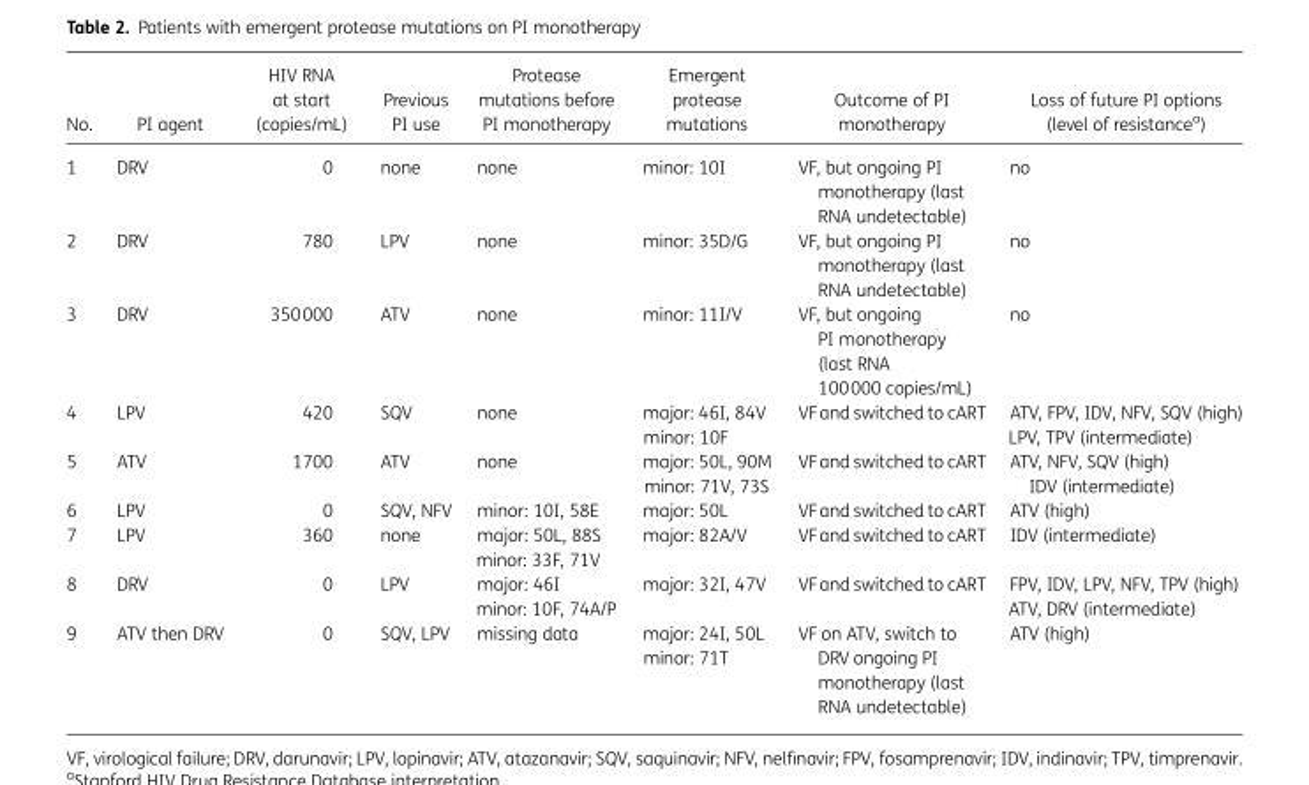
<table><thead><tr><td>No.</td><td>PI agent</td><td>HIV RNA at start (copies/mL)</td><td>Previous PI use</td><td>Protease mutations before PI monotherapy</td><td>Emergent protease mutations</td><td>Outcome of PI monotherapy</td><td>Loss of future PI options (level of resistance<sup>a</sup>)</td></tr></thead><tbody><tr><td>1</td><td>DRV</td><td>0</td><td>none</td><td>none</td><td>minor: 10I</td><td>VF, but ongoing PI monotherapy (last RNA undetectable)</td><td>no</td></tr><tr><td>2</td><td>DRV</td><td>780</td><td>LPV</td><td>none</td><td>minor: 35D/G</td><td>VF, but ongoing PI monotherapy (last RNA undetectable)</td><td>no</td></tr><tr><td>3</td><td>DRV</td><td>350000</td><td>ATV</td><td>none</td><td>minor: 11I/V</td><td>VF, but ongoing PI monotherapy (last RNA 100000 copies/mL)</td><td>no</td></tr><tr><td>4</td><td>LPV</td><td>420</td><td>SQV</td><td>none</td><td>major: 46I, 84V minor: 10F</td><td>VFand switched to cART</td><td>ATV, FPV, IDV, NFV, SQV (high) LPV, TPV (intermediate)</td></tr><tr><td>5</td><td>ATV</td><td>1700</td><td>ATV</td><td>none</td><td>major: 50L, 90M minor: 71V, 73S</td><td>VFand switched to cART</td><td>ATV, NFV, SQV (high) IDV (intermediate)</td></tr><tr><td>6</td><td>LPV</td><td>0</td><td>SQV, NFV</td><td>minor: 10I, 58E</td><td>major: 50L</td><td>VFand switched to cART</td><td>ATV (high)</td></tr><tr><td>7</td><td>LPV</td><td>360</td><td>none</td><td>major: 50L, 88S minor: 33F, 71V</td><td>major: 82A/V</td><td>VFand switched to cART</td><td>IDV (intermediate)</td></tr><tr><td>8</td><td>DRV</td><td>0</td><td>LPV</td><td>major: 46I minor: 10F, 74A/P</td><td>major: 32I, 47V</td><td>VFand switched to cART</td><td>FPV, IDV, LPV, NFV, TPV (high) ATV, DRV (intermediate)</td></tr><tr><td>9</td><td>ATV then DRV</td><td>0</td><td>SQV, LPV</td><td>missing data</td><td>major: 24I, 50L minor: 71T</td><td>VF on ATV, switch to DRV ongoing PI monotherapy (last RNA undetectable)</td><td>ATV (high)</td></tr></tbody></table>